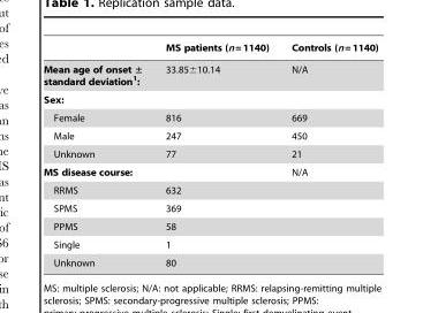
<table><thead><tr><td></td><td>MS patients (n=1140)</td><td>Controls (n=1140)</td></tr></thead><tbody><tr><td>Mean age of onset ± standard deviation1:</td><td>33.85±10.14</td><td>N/A</td></tr><tr><td colspan="3">Sex:</td></tr><tr><td>Female</td><td>816</td><td>669</td></tr><tr><td>Male</td><td>247</td><td>450</td></tr><tr><td>Unknown</td><td>77</td><td>21</td></tr><tr><td>MS disease course:</td><td></td><td>N/A</td></tr><tr><td>RRMS</td><td>632</td><td></td></tr><tr><td>SPMS</td><td>369</td><td></td></tr><tr><td>PPMS</td><td>58</td><td></td></tr><tr><td>Single</td><td>1</td><td></td></tr><tr><td>Unknown</td><td>80</td><td></td></tr></tbody></table>